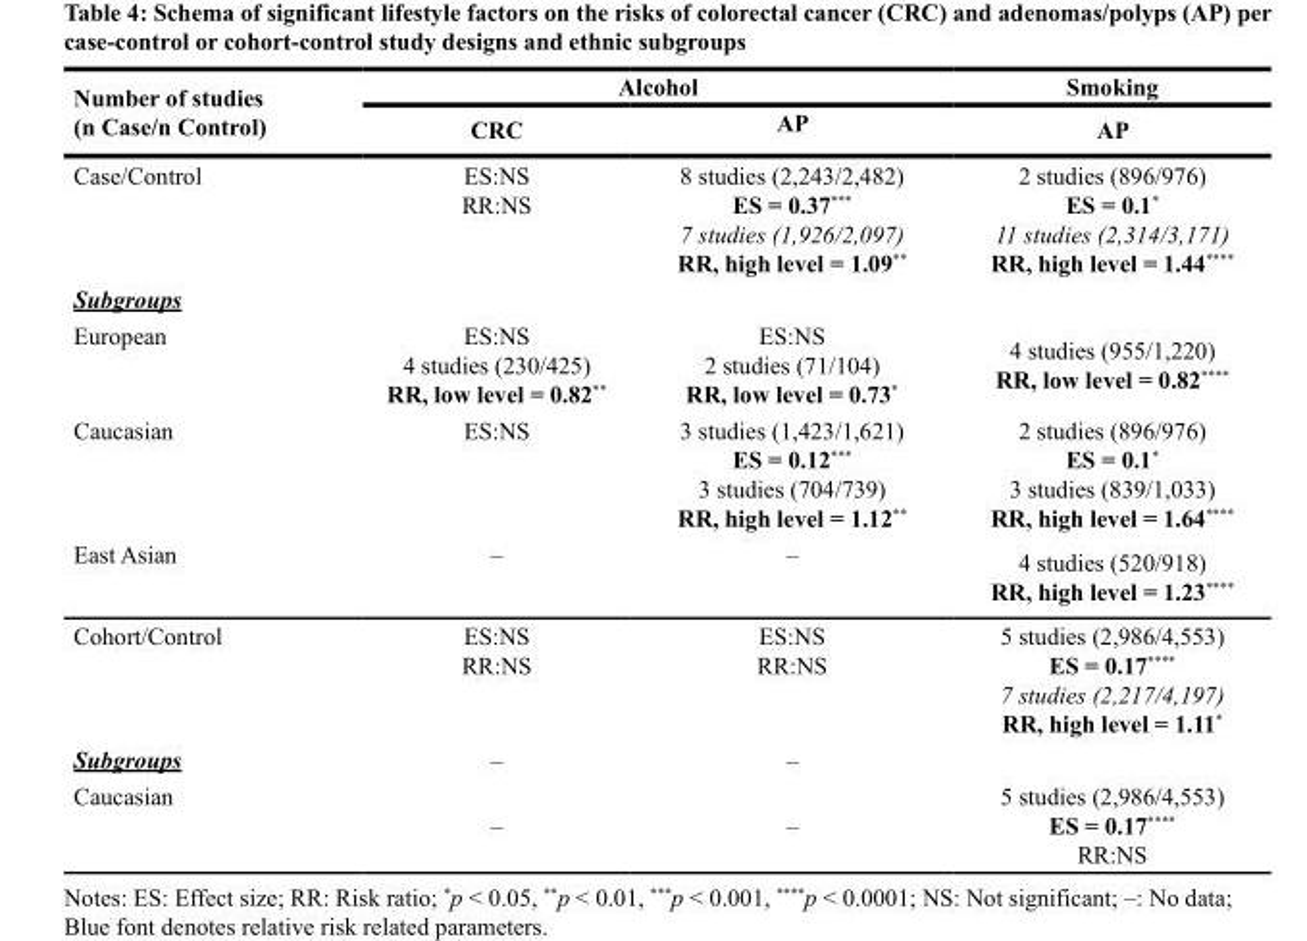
<table><thead><tr><td rowspan="2">Number of studies (n Case/n Control)</td><td colspan="2">Alcohol</td><td rowspan="2">Smoking AP</td></tr><tr><td>CRC</td><td>AP</td></tr></thead><tbody><tr><td>Case/Control</td><td>ES:NS RR:NS</td><td>8 studies (2,243/2,482) ES = 0.37*** 7 studies (1,926/2,097) RR, high level = 1.09**</td><td>2 studies (896/976) ES = 0.1* 11 studies (2,314/3,171) RR, high level = 1.44****</td></tr><tr><td colspan="4">Subgroups</td></tr><tr><td>European</td><td>ES:NS 4 studies (230/425) RR, low level = 0.82**</td><td>ES:NS 2 studies (71/104) RR, low level = 0.73*</td><td>4 studies (955/1,220) RR, low level = 0.82****</td></tr><tr><td>Caucasian</td><td>ES:NS</td><td>3 studies (1,423/1,621) ES = 0.12*** 3 studies (704/739) RR, high level = 1.12**</td><td>2 studies (896/976) ES = 0.1* 3 studies (839/1,033) RR, high level = 1.64****</td></tr><tr><td>East Asian</td><td>–</td><td>–</td><td>4 studies (520/918) RR, high level = 1.23****</td></tr><tr><td>Cohort/Control</td><td>ES:NS RR:NS</td><td>ES:NS RR:NS</td><td>5 studies (2,986/4,553) ES = 0.17**** 7 studies (2,217/4,197) RR, high level = 1.11*</td></tr><tr><td>Subgroups</td><td>–</td><td>–</td><td></td></tr><tr><td>Caucasian</td><td>–</td><td>–</td><td>5 studies (2,986/4,553) ES = 0.17**** RR:NS</td></tr></tbody></table>